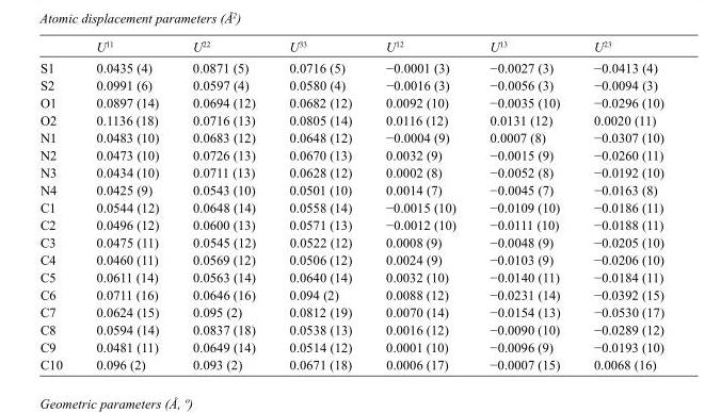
<table><thead><tr><td></td><td>U<sup>11</sup></td><td>U<sup>22</sup></td><td>U<sup>33</sup></td><td>U<sup>12</sup></td><td>U<sup>13</sup></td><td>U<sup>23</sup></td></tr></thead><tbody><tr><td>S1</td><td>0.0435 (4)</td><td>0.0871 (5)</td><td>0.0716 (5)</td><td>−0.0001 (3)</td><td>−0.0027 (3)</td><td>−0.0413 (4)</td></tr><tr><td>S2</td><td>0.0991 (6)</td><td>0.0597 (4)</td><td>0.0580 (4)</td><td>−0.0016 (3)</td><td>−0.0056 (3)</td><td>−0.0094 (3)</td></tr><tr><td>O1</td><td>0.0897 (14)</td><td>0.0694 (12)</td><td>0.0682 (12)</td><td>0.0092 (10)</td><td>−0.0035 (10)</td><td>−0.0296 (10)</td></tr><tr><td>O2</td><td>0.1136 (18)</td><td>0.0716 (13)</td><td>0.0805 (14)</td><td>0.0116 (12)</td><td>0.0131 (12)</td><td>0.0020 (11)</td></tr><tr><td>N1</td><td>0.0483 (10)</td><td>0.0683 (12)</td><td>0.0648 (12)</td><td>−0.0004 (9)</td><td>0.0007 (8)</td><td>−0.0307 (10)</td></tr><tr><td>N2</td><td>0.0473 (10)</td><td>0.0726 (13)</td><td>0.0670 (13)</td><td>0.0032 (9)</td><td>−0.0015 (9)</td><td>−0.0260 (11)</td></tr><tr><td>N3</td><td>0.0434 (10)</td><td>0.0711 (13)</td><td>0.0628 (12)</td><td>0.0002 (8)</td><td>−0.0052 (8)</td><td>−0.0192 (10)</td></tr><tr><td>N4</td><td>0.0425 (9)</td><td>0.0543 (10)</td><td>0.0501 (10)</td><td>0.0014 (7)</td><td>−0.0045 (7)</td><td>−0.0163 (8)</td></tr><tr><td>C1</td><td>0.0544 (12)</td><td>0.0648 (14)</td><td>0.0558 (14)</td><td>−0.0015 (10)</td><td>−0.0109 (10)</td><td>−0.0186 (11)</td></tr><tr><td>C2</td><td>0.0496 (12)</td><td>0.0600 (13)</td><td>0.0571 (13)</td><td>−0.0012 (10)</td><td>−0.0111 (10)</td><td>−0.0188 (11)</td></tr><tr><td>C3</td><td>0.0475 (11)</td><td>0.0545 (12)</td><td>0.0522 (12)</td><td>0.0008 (9)</td><td>−0.0048 (9)</td><td>−0.0205 (10)</td></tr><tr><td>C4</td><td>0.0460 (11)</td><td>0.0569 (12)</td><td>0.0506 (12)</td><td>0.0024 (9)</td><td>−0.0103 (9)</td><td>−0.0206 (10)</td></tr><tr><td>C5</td><td>0.0611 (14)</td><td>0.0563 (14)</td><td>0.0640 (14)</td><td>0.0032 (10)</td><td>−0.0140 (11)</td><td>−0.0184 (11)</td></tr><tr><td>C6</td><td>0.0711 (16)</td><td>0.0646 (16)</td><td>0.094 (2)</td><td>0.0088 (12)</td><td>−0.0231 (14)</td><td>−0.0392 (15)</td></tr><tr><td>C7</td><td>0.0624 (15)</td><td>0.095 (2)</td><td>0.0812 (19)</td><td>0.0070 (14)</td><td>−0.0154 (13)</td><td>−0.0530 (17)</td></tr><tr><td>C8</td><td>0.0594 (14)</td><td>0.0837 (18)</td><td>0.0538 (13)</td><td>0.0016 (12)</td><td>−0.0090 (10)</td><td>−0.0289 (12)</td></tr><tr><td>C9</td><td>0.0481 (11)</td><td>0.0649 (14)</td><td>0.0514 (12)</td><td>0.0001 (10)</td><td>−0.0096 (9)</td><td>−0.0193 (10)</td></tr><tr><td>C10</td><td>0.096 (2)</td><td>0.093 (2)</td><td>0.0671 (18)</td><td>0.0006 (17)</td><td>−0.0007 (15)</td><td>0.0068 (16)</td></tr></tbody></table>